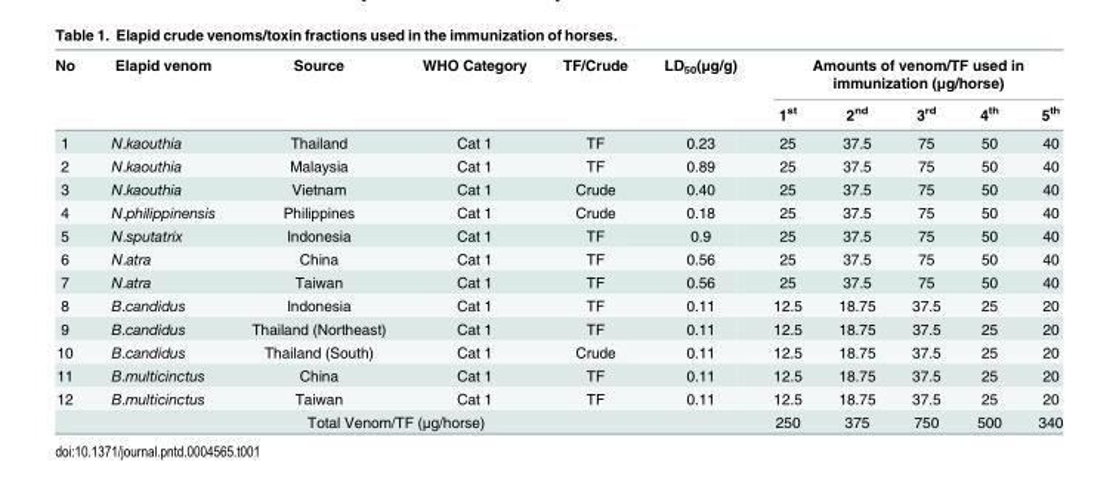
<table><thead><tr><td rowspan="2">No</td><td rowspan="2">Elapid venom</td><td rowspan="2">Source</td><td rowspan="2">WHO Category</td><td rowspan="2">TF/Crude</td><td rowspan="2">LD<sub>50</sub>(μg/g)</td><td colspan="5">Amounts of venom/TF used in immunization (μg/horse)</td></tr><tr><td>1<sup>st</sup></td><td>2<sup>nd</sup></td><td>3<sup>rd</sup></td><td>4<sup>th</sup></td><td>5<sup>th</sup></td></tr></thead><tbody><tr><td>1</td><td>N.kaouthia</td><td>Thailand</td><td>Cat 1</td><td>TF</td><td>0.23</td><td>25</td><td>37.5</td><td>75</td><td>50</td><td>40</td></tr><tr><td>2</td><td>N.kaouthia</td><td>Malaysia</td><td>Cat 1</td><td>TF</td><td>0.89</td><td>25</td><td>37.5</td><td>75</td><td>50</td><td>40</td></tr><tr><td>3</td><td>N.kaouthia</td><td>Vietnam</td><td>Cat 1</td><td>Crude</td><td>0.40</td><td>25</td><td>37.5</td><td>75</td><td>50</td><td>40</td></tr><tr><td>4</td><td>N.philippinensis</td><td>Philippines</td><td>Cat 1</td><td>Crude</td><td>0.18</td><td>25</td><td>37.5</td><td>75</td><td>50</td><td>40</td></tr><tr><td>5</td><td>N.sputatrix</td><td>Indonesia</td><td>Cat 1</td><td>TF</td><td>0.9</td><td>25</td><td>37.5</td><td>75</td><td>50</td><td>40</td></tr><tr><td>6</td><td>N.atra</td><td>China</td><td>Cat 1</td><td>TF</td><td>0.56</td><td>25</td><td>37.5</td><td>75</td><td>50</td><td>40</td></tr><tr><td>7</td><td>N.atra</td><td>Taiwan</td><td>Cat 1</td><td>TF</td><td>0.56</td><td>25</td><td>37.5</td><td>75</td><td>50</td><td>40</td></tr><tr><td>8</td><td>B.candidus</td><td>Indonesia</td><td>Cat 1</td><td>TF</td><td>0.11</td><td>12.5</td><td>18.75</td><td>37.5</td><td>25</td><td>20</td></tr><tr><td>9</td><td>B.candidus</td><td>Thailand (Northeast)</td><td>Cat 1</td><td>TF</td><td>0.11</td><td>12.5</td><td>18.75</td><td>37.5</td><td>25</td><td>20</td></tr><tr><td>10</td><td>B.candidus</td><td>Thailand (South)</td><td>Cat 1</td><td>Crude</td><td>0.11</td><td>12.5</td><td>18.75</td><td>37.5</td><td>25</td><td>20</td></tr><tr><td>11</td><td>B.multicinctus</td><td>China</td><td>Cat 1</td><td>TF</td><td>0.11</td><td>12.5</td><td>18.75</td><td>37.5</td><td>25</td><td>20</td></tr><tr><td>12</td><td>B.multicinctus</td><td>Taiwan</td><td>Cat 1</td><td>TF</td><td>0.11</td><td>12.5</td><td>18.75</td><td>37.5</td><td>25</td><td>20</td></tr><tr><td colspan="6">Total Venom/TF (μg/horse)</td><td>250</td><td>375</td><td>750</td><td>500</td><td>340</td></tr></tbody></table>